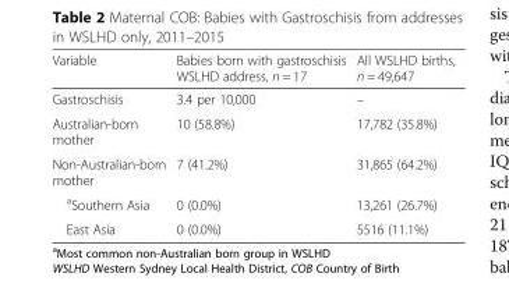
<table><thead><tr><td>Variable</td><td>Babies born with gastroschisis WSLHD address, n = 17</td><td>All WSLHD births, n = 49,647</td></tr></thead><tbody><tr><td>Gastroschisis</td><td>3.4 per 10,000</td><td>–</td></tr><tr><td>Australian-born mother</td><td>10 (58.8%)</td><td>17,782 (35.8%)</td></tr><tr><td>Non-Australian-born mother</td><td>7 (41.2%)</td><td>31,865 (64.2%)</td></tr><tr><td><sup>a</sup>Southern Asia</td><td>0 (0.0%)</td><td>13,261 (26.7%)</td></tr><tr><td>East Asia</td><td>0 (0.0%)</td><td>5516 (11.1%)</td></tr></tbody></table>